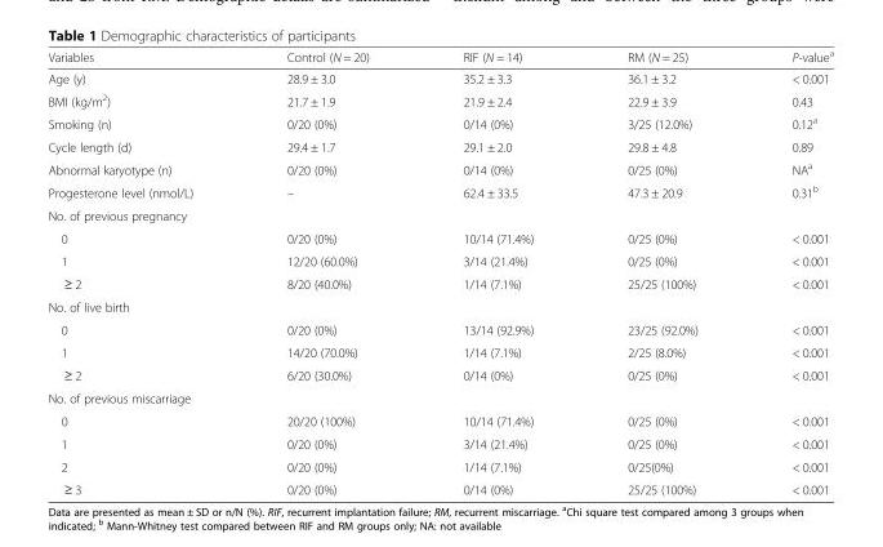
<table><thead><tr><td>Variables</td><td>Control (N = 20)</td><td>RIF (N = 14)</td><td>RM (N = 25)</td><td>P-value<sup>a</sup></td></tr></thead><tbody><tr><td>Age (y)</td><td>28.9 ± 3.0</td><td>35.2 ± 3.3</td><td>36.1 ± 3.2</td><td>&lt; 0.001</td></tr><tr><td>BMI (kg/m<sup>2</sup>)</td><td>21.7 ± 1.9</td><td>21.9 ± 2.4</td><td>22.9 ± 3.9</td><td>0.43</td></tr><tr><td>Smoking (n)</td><td>0/20 (0%)</td><td>0/14 (0%)</td><td>3/25 (12.0%)</td><td>0.12<sup>a</sup></td></tr><tr><td>Cycle length (d)</td><td>29.4 ± 1.7</td><td>29.1 ± 2.0</td><td>29.8 ± 4.8</td><td>0.89</td></tr><tr><td>Abnormal karyotype (n)</td><td>0/20 (0%)</td><td>0/14 (0%)</td><td>0/25 (0%)</td><td>NA<sup>a</sup></td></tr><tr><td>Progesterone level (nmol/L)</td><td>–</td><td>62.4 ± 33.5</td><td>47.3 ± 20.9</td><td>0.31<sup>b</sup></td></tr><tr><td colspan="5">No. of previous pregnancy</td></tr><tr><td>0</td><td>0/20 (0%)</td><td>10/14 (71.4%)</td><td>0/25 (0%)</td><td>&lt; 0.001</td></tr><tr><td>1</td><td>12/20 (60.0%)</td><td>3/14 (21.4%)</td><td>0/25 (0%)</td><td>&lt; 0.001</td></tr><tr><td>≥ 2</td><td>8/20 (40.0%)</td><td>1/14 (7.1%)</td><td>25/25 (100%)</td><td>&lt; 0.001</td></tr><tr><td colspan="5">No. of live birth</td></tr><tr><td>0</td><td>0/20 (0%)</td><td>13/14 (92.9%)</td><td>23/25 (92.0%)</td><td>&lt; 0.001</td></tr><tr><td>1</td><td>14/20 (70.0%)</td><td>1/14 (7.1%)</td><td>2/25 (8.0%)</td><td>&lt; 0.001</td></tr><tr><td>≥ 2</td><td>6/20 (30.0%)</td><td>0/14 (0%)</td><td>0/25 (0%)</td><td>&lt; 0.001</td></tr><tr><td colspan="5">No. of previous miscarriage</td></tr><tr><td>0</td><td>20/20 (100%)</td><td>10/14 (71.4%)</td><td>0/25 (0%)</td><td>&lt; 0.001</td></tr><tr><td>1</td><td>0/20 (0%)</td><td>3/14 (21.4%)</td><td>0/25 (0%)</td><td>&lt; 0.001</td></tr><tr><td>2</td><td>0/20 (0%)</td><td>1/14 (7.1%)</td><td>0/25(0%)</td><td>&lt; 0.001</td></tr><tr><td>≥ 3</td><td>0/20 (0%)</td><td>0/14 (0%)</td><td>25/25 (100%)</td><td>&lt; 0.001</td></tr></tbody></table>